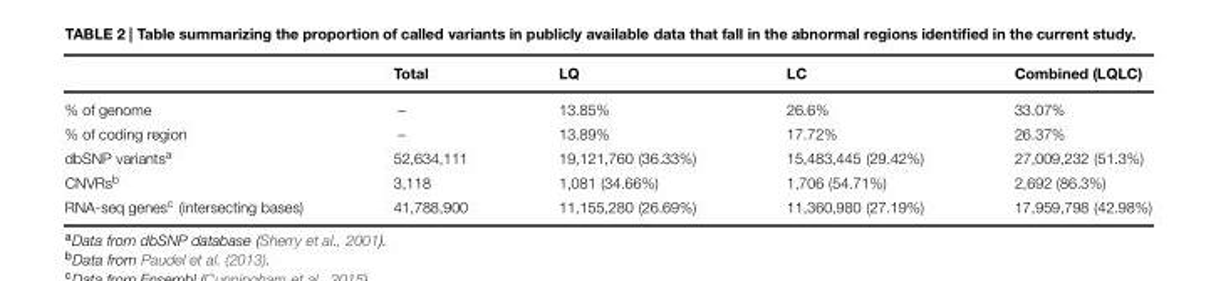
<table><thead><tr><td></td><td>Total</td><td>LQ</td><td>LC</td><td>Combined (LQLC)</td></tr></thead><tbody><tr><td>% of genome</td><td>–</td><td>13.85%</td><td>26.6%</td><td>33.07%</td></tr><tr><td>% of coding region</td><td>–</td><td>13.89%</td><td>17.72%</td><td>26.37%</td></tr><tr><td>dbSNP variants<sup>a</sup></td><td>52,634,111</td><td>19,121,760 (36.33%)</td><td>15,483,445 (29.42%)</td><td>27,009,232 (51.3%)</td></tr><tr><td>CNVRs<sup>b</sup></td><td>3,118</td><td>1,081 (34.66%)</td><td>1,706 (54.71%)</td><td>2,692 (86.3%)</td></tr><tr><td>RNA-seq genes<sup>c</sup> (intersecting bases)</td><td>41,788,900</td><td>11,155,280 (26.69%)</td><td>11,360,980 (27.19%)</td><td>17,959,798 (42.98%)</td></tr></tbody></table>